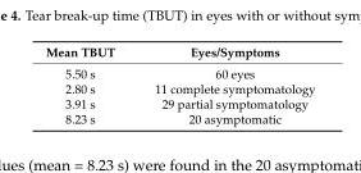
<table><thead><tr><td>Mean TBUT</td><td>Eyes/Symptoms</td></tr></thead><tbody><tr><td>5.50 s</td><td>60 eyes</td></tr><tr><td>2.80 s</td><td>11 complete symptomatology</td></tr><tr><td>3.91 s</td><td>29 partial symptomatology</td></tr><tr><td>8.23 s</td><td>20 asymptomatic</td></tr></tbody></table>